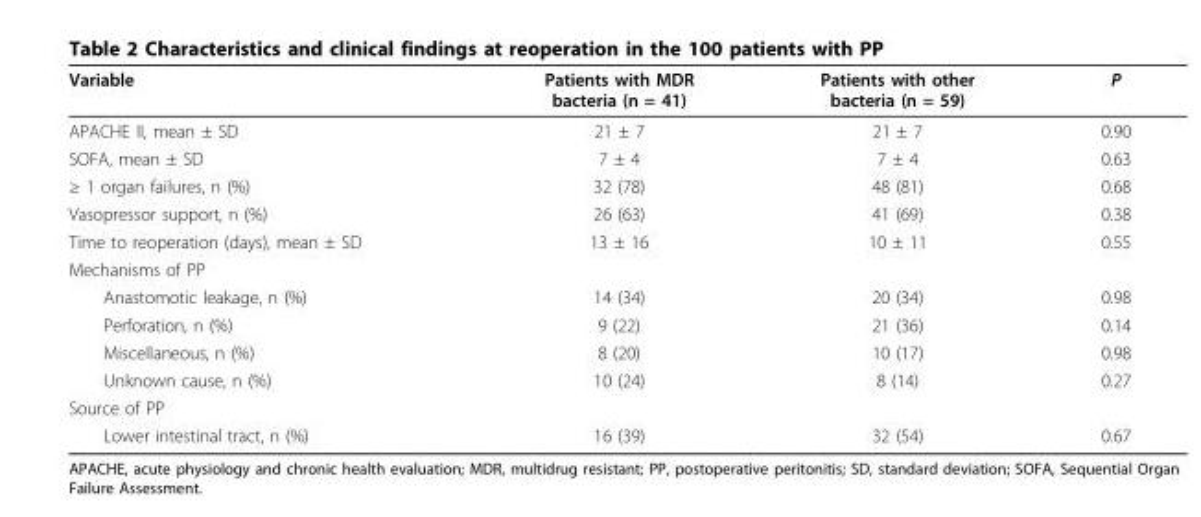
<table><thead><tr><td>Variable</td><td>Patients with MDR bacteria (n = 41)</td><td>Patients with other bacteria (n = 59)</td><td>P</td></tr></thead><tbody><tr><td>APACHE II, mean ± SD</td><td>21 ± 7</td><td>21 ± 7</td><td>0.90</td></tr><tr><td>SOFA, mean ± SD</td><td>7 ± 4</td><td>7 ± 4</td><td>0.63</td></tr><tr><td>≥ 1 organ failures, n (%)</td><td>32 (78)</td><td>48 (81)</td><td>0.68</td></tr><tr><td>Vasopressor support, n (%)</td><td>26 (63)</td><td>41 (69)</td><td>0.38</td></tr><tr><td>Time to reoperation (days), mean ± SD</td><td>13 ± 16</td><td>10 ± 11</td><td>0.55</td></tr><tr><td colspan="4">Mechanisms of PP</td></tr><tr><td>Anastomotic leakage, n (%)</td><td>14 (34)</td><td>20 (34)</td><td>0.98</td></tr><tr><td>Perforation, n (%)</td><td>9 (22)</td><td>21 (36)</td><td>0.14</td></tr><tr><td>Miscellaneous, n (%)</td><td>8 (20)</td><td>10 (17)</td><td>0.98</td></tr><tr><td>Unknown cause, n (%)</td><td>10 (24)</td><td>8 (14)</td><td>0.27</td></tr><tr><td colspan="4">Source of PP</td></tr><tr><td>Lower intestinal tract, n (%)</td><td>16 (39)</td><td>32 (54)</td><td>0.67</td></tr></tbody></table>